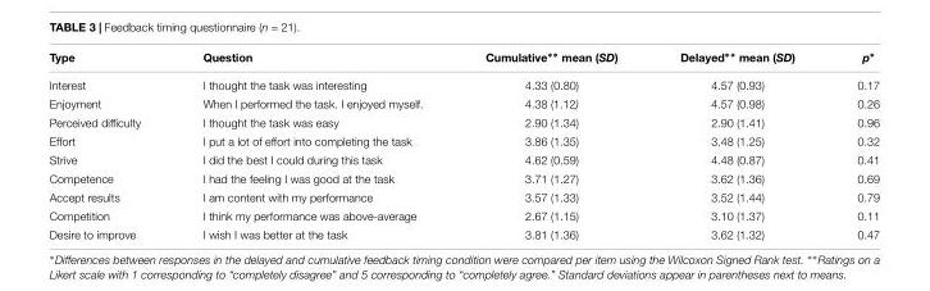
<table><thead><tr><td>Type</td><td>Question</td><td>Cumulative∗∗ mean (SD)</td><td>Delayed∗∗ mean (SD)</td><td>p∗</td></tr></thead><tbody><tr><td>Interest</td><td>I thought the task was interesting</td><td>4.33 (0.80)</td><td>4.57 (0.93)</td><td>0.17</td></tr><tr><td>Enjoyment</td><td>When I performed the task. I enjoyed myself.</td><td>4.38 (1.12)</td><td>4.57 (0.98)</td><td>0.26</td></tr><tr><td>Perceived difficulty</td><td>I thought the task was easy</td><td>2.90 (1.34)</td><td>2.90 (1.41)</td><td>0.96</td></tr><tr><td>Effort</td><td>I put a lot of effort into completing the task</td><td>3.86 (1.35)</td><td>3.48 (1.25)</td><td>0.32</td></tr><tr><td>Strive</td><td>I did the best I could during this task</td><td>4.62 (0.59)</td><td>4.48 (0.87)</td><td>0.41</td></tr><tr><td>Competence</td><td>I had the feeling I was good at the task</td><td>3.71 (1.27)</td><td>3.62 (1.36)</td><td>0.69</td></tr><tr><td>Accept results</td><td>I am content with my performance</td><td>3.57 (1.33)</td><td>3.52 (1.44)</td><td>0.79</td></tr><tr><td>Competition</td><td>I think my performance was above-average</td><td>2.67 (1.15)</td><td>3.10 (1.37)</td><td>0.11</td></tr><tr><td>Desire to improve</td><td>I wish I was better at the task</td><td>3.81 (1.36)</td><td>3.62 (1.32)</td><td>0.47</td></tr></tbody></table>